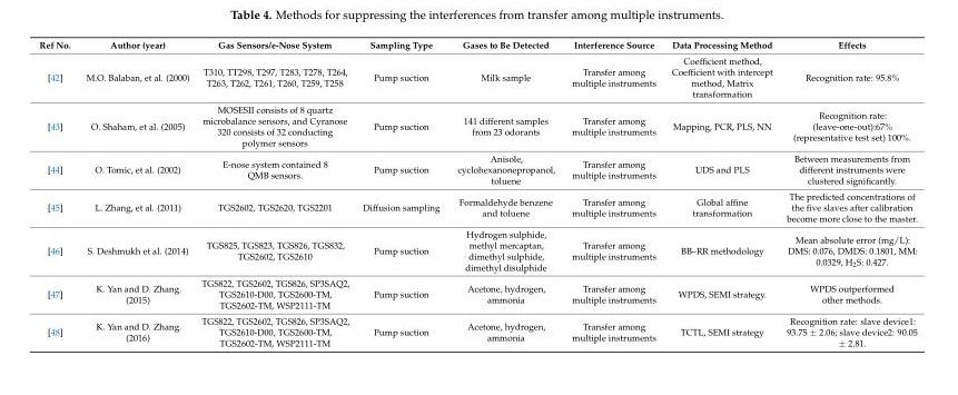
<table><thead><tr><td>Ref No.</td><td>Author (year)</td><td>Gas Sensors/e-Nose System</td><td>Sampling Type</td><td>Gases to Be Detected</td><td>Interference Source</td><td>Data Processing Method</td><td>Effects</td></tr></thead><tbody><tr><td>[42]</td><td>M.O. Balaban, et al. (2000)</td><td>T310, TT298, T297, T283, T278, T264, T263, T262, T261, T260, T259, T258</td><td>Pump suction</td><td>Milk sample</td><td>Transfer among multiple instruments</td><td>Coefficient method, Coefficient with intercept method, Matrix transformation</td><td>Recognition rate: 95.8%</td></tr><tr><td>[43]</td><td>O. Shaham, et al. (2005)</td><td>MOSESII consists of 8 quartz microbalance sensors, and Cyranose 320 consists of 32 conducting polymer sensors</td><td>Pump suction</td><td>141 different samples from 23 odorants</td><td>Transfer among multiple instruments</td><td>Mapping, PCR, PLS, NN</td><td>Recognition rate: (leave-one-out):67% (representative test set) 100%.</td></tr><tr><td>[44]</td><td>O. Tomic, et al. (2002)</td><td>E-nose system contained 8 QMB sensors.</td><td>Pump suction</td><td>Anisole, cyclohexanonepropanol, toluene</td><td>Transfer among multiple instruments</td><td>UDS and PLS</td><td>Between measurements from different instruments were clustered significantly.</td></tr><tr><td>[45]</td><td>L. Zhang, et al. (2011)</td><td>TGS2602, TGS2620, TGS2201</td><td>Diffusion sampling</td><td>Formaldehyde benzene and toluene</td><td>Transfer among multiple instruments</td><td>Global affine transformation</td><td>The predicted concentrations of the five slaves after calibration become more close to the master.</td></tr><tr><td>[46]</td><td>S. Deshmukh et al. (2014)</td><td>TGS825, TGS823, TGS826, TGS832, TGS2602, TGS2610</td><td>Pump suction</td><td>Hydrogen sulphide, methyl mercaptan, dimethyl sulphide, dimethyl disulphide</td><td>Transfer among multiple instruments</td><td>BB–RR methodology</td><td>Mean absolute error (mg/L): DMS: 0.076, DMDS: 0.1801, MM: 0.0329, H<sub>2</sub>S: 0.427.</td></tr><tr><td>[47]</td><td>K. Yan and D. Zhang. (2015)</td><td>TGS822, TGS2602, TGS826, SP3SAQ2, TGS2610-D00, TGS2600-TM, TGS2602-TM, WSP2111-TM</td><td>Pump suction</td><td>Acetone, hydrogen, ammonia</td><td>Transfer among multiple instruments</td><td>WPDS, SEMI strategy.</td><td>WPDS outperformed other methods.</td></tr><tr><td>[48]</td><td>K. Yan and D. Zhang. (2016)</td><td>TGS822, TGS2602, TGS826, SP3SAQ2, TGS2610-D00, TGS2600-TM, TGS2602-TM, WSP2111-TM</td><td>Pump suction</td><td>Acetone, hydrogen, ammonia</td><td>Transfer among multiple instruments</td><td>TCTL, SEMI strategy</td><td>Recognition rate: slave device1: 93.75 ± 2.06; slave device2: 90.05 ± 2.81.</td></tr></tbody></table>